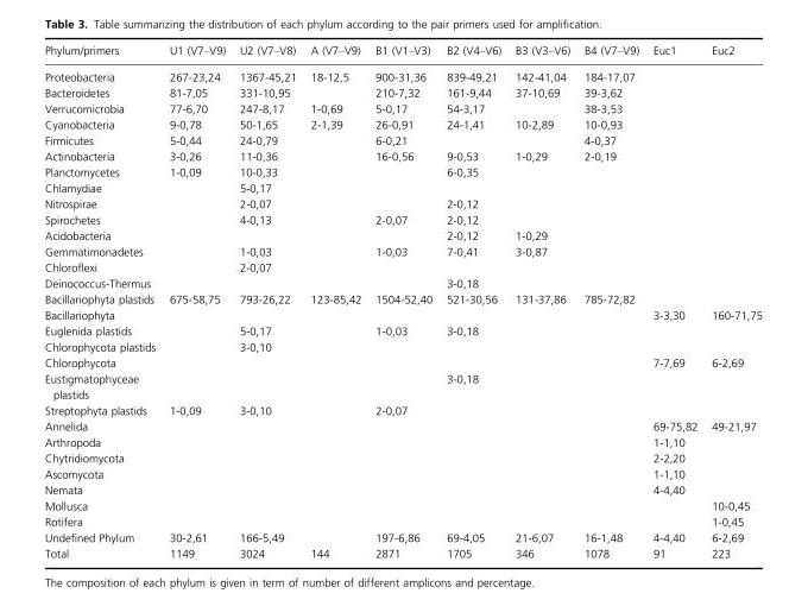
<table><thead><tr><td>Phylum/primers</td><td>U1 (V7–V9)</td><td>U2 (V7–V8)</td><td>A (V7–V9)</td><td>B1 (V1–V3)</td><td>B2 (V4–V6)</td><td>B3 (V3–V6)</td><td>B4 (V7–V9)</td><td>Euc1</td><td>Euc2</td></tr></thead><tbody><tr><td>Proteobacteria</td><td>267-23,24</td><td>1367-45,21</td><td>18-12,5</td><td>900-31,36</td><td>839-49,21</td><td>142-41,04</td><td>184-17,07</td><td></td><td></td></tr><tr><td>Bacteroidetes</td><td>81-7,05</td><td>331-10,95</td><td></td><td>210-7,32</td><td>161-9,44</td><td>37-10,69</td><td>39-3,62</td><td></td><td></td></tr><tr><td>Verrucomicrobia</td><td>77-6,70</td><td>247-8,17</td><td>1-0,69</td><td>5-0,17</td><td>54-3,17</td><td></td><td>38-3,53</td><td></td><td></td></tr><tr><td>Cyanobacteria</td><td>9-0,78</td><td>50-1,65</td><td>2-1,39</td><td>26-0,91</td><td>24-1,41</td><td>10-2,89</td><td>10-0,93</td><td></td><td></td></tr><tr><td>Firmicutes</td><td>5-0,44</td><td>24-0,79</td><td></td><td>6-0,21</td><td></td><td></td><td>4-0,37</td><td></td><td></td></tr><tr><td>Actinobacteria</td><td>3-0,26</td><td>11-0,36</td><td></td><td>16-0,56</td><td>9-0,53</td><td>1-0,29</td><td>2-0,19</td><td></td><td></td></tr><tr><td>Planctomycetes</td><td>1-0,09</td><td>10-0,33</td><td></td><td></td><td>6-0,35</td><td></td><td></td><td></td><td></td></tr><tr><td>Chlamydiae</td><td></td><td>5-0,17</td><td></td><td></td><td></td><td></td><td></td><td></td><td></td></tr><tr><td>Nitrospirae</td><td></td><td>2-0,07</td><td></td><td></td><td>2-0,12</td><td></td><td></td><td></td><td></td></tr><tr><td>Spirochetes</td><td></td><td>4-0,13</td><td></td><td>2-0,07</td><td>2-0,12</td><td></td><td></td><td></td><td></td></tr><tr><td>Acidobacteria</td><td></td><td></td><td></td><td></td><td>2-0,12</td><td>1-0,29</td><td></td><td></td><td></td></tr><tr><td>Gemmatimonadetes</td><td></td><td>1-0,03</td><td></td><td>1-0,03</td><td>7-0,41</td><td>3-0,87</td><td></td><td></td><td></td></tr><tr><td>Chloroflexi</td><td></td><td>2-0,07</td><td></td><td></td><td></td><td></td><td></td><td></td><td></td></tr><tr><td>Deinococcus-Thermus</td><td></td><td></td><td></td><td></td><td>3-0,18</td><td></td><td></td><td></td><td></td></tr><tr><td>Bacillariophyta plastids</td><td>675-58,75</td><td>793-26,22</td><td>123-85,42</td><td>1504-52,40</td><td>521-30,56</td><td>131-37,86</td><td>785-72,82</td><td></td><td></td></tr><tr><td>Bacillariophyta</td><td></td><td></td><td></td><td></td><td></td><td></td><td></td><td>3-3,30</td><td>160-71,75</td></tr><tr><td>Euglenida plastids</td><td></td><td>5-0,17</td><td></td><td>1-0,03</td><td>3-0,18</td><td></td><td></td><td></td><td></td></tr><tr><td>Chlorophycota plastids</td><td></td><td>3-0,10</td><td></td><td></td><td></td><td></td><td></td><td></td><td></td></tr><tr><td>Chlorophycota</td><td></td><td></td><td></td><td></td><td></td><td></td><td></td><td>7-7,69</td><td>6-2,69</td></tr><tr><td>Eustigmatophyceae plastids</td><td></td><td></td><td></td><td></td><td>3-0,18</td><td></td><td></td><td></td><td></td></tr><tr><td>Streptophyta plastids</td><td>1-0,09</td><td>3-0,10</td><td></td><td>2-0,07</td><td></td><td></td><td></td><td></td><td></td></tr><tr><td>Annelida</td><td></td><td></td><td></td><td></td><td></td><td></td><td></td><td>69-75,82</td><td>49-21,97</td></tr><tr><td>Arthropoda</td><td></td><td></td><td></td><td></td><td></td><td></td><td></td><td>1-1,10</td><td></td></tr><tr><td>Chytridiomycota</td><td></td><td></td><td></td><td></td><td></td><td></td><td></td><td>2-2,20</td><td></td></tr><tr><td>Ascomycota</td><td></td><td></td><td></td><td></td><td></td><td></td><td></td><td>1-1,10</td><td></td></tr><tr><td>Nemata</td><td></td><td></td><td></td><td></td><td></td><td></td><td></td><td>4-4,40</td><td></td></tr><tr><td>Mollusca</td><td></td><td></td><td></td><td></td><td></td><td></td><td></td><td></td><td>10-0,45</td></tr><tr><td>Rotifera</td><td></td><td></td><td></td><td></td><td></td><td></td><td></td><td></td><td>1-0,45</td></tr><tr><td>Undefined Phylum</td><td>30-2,61</td><td>166-5,49</td><td></td><td>197-6,86</td><td>69-4,05</td><td>21-6,07</td><td>16-1,48</td><td>4-4,40</td><td>6-2,69</td></tr><tr><td>Total</td><td>1149</td><td>3024</td><td>144</td><td>2871</td><td>1705</td><td>346</td><td>1078</td><td>91</td><td>223</td></tr></tbody></table>